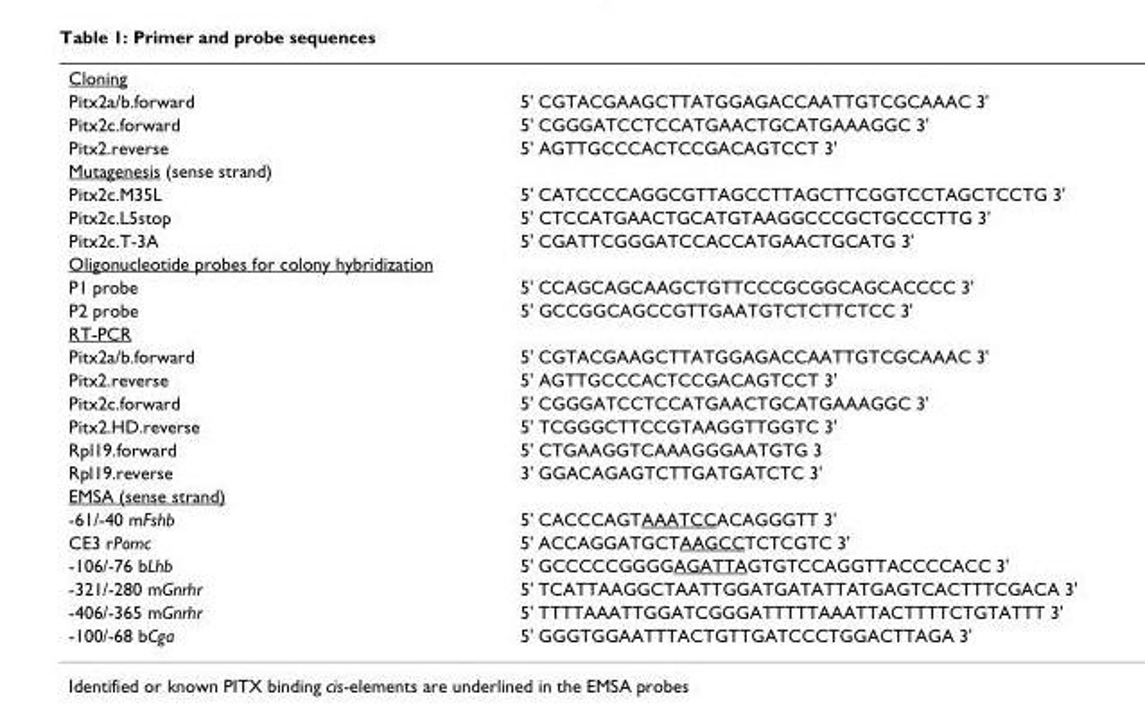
<table><tbody><tr><td colspan="2">Cloning</td></tr><tr><td>Pitx2a/b.forward</td><td>5&#x27; CGTACGAAGCTTATGGAGACCAATTGTCGCAAAC 3&#x27;</td></tr><tr><td>Pitx2c.forward</td><td>5&#x27; CGGGATCCTCCATGAACTGCATGAAAGGC 3&#x27;</td></tr><tr><td>Pitx2.reverse</td><td>5&#x27; AGTTGCCCACTCCGACAGTCCT 3&#x27;</td></tr><tr><td colspan="2">Mutagenesis (sense strand)</td></tr><tr><td>Pitx2c.M35L</td><td>5&#x27; CATCCCCAGGCGTTAGCCTTAGCTTCGGTCCTAGCTCCTG 3&#x27;</td></tr><tr><td>Pitx2c.L5stop</td><td>5&#x27; CTCCATGAACTGCATGTAAGGCCCGCTGCCCTTG 3&#x27;</td></tr><tr><td>Pitx2c.T-3A</td><td>5&#x27; CGATTCGGGATCCACCATGAACTGCATG 3&#x27;</td></tr><tr><td colspan="2">Oligonucleotide probes for colony hybridization</td></tr><tr><td>P1 probe</td><td>5&#x27; CCAGCAGCAAGCTGTTCCCGCGGCAGCACCCC 3&#x27;</td></tr><tr><td>P2 probe</td><td>5&#x27; GCCGGCAGCCGTTGAATGTCTCTTCTCC 3&#x27;</td></tr><tr><td colspan="2">RT-PCR</td></tr><tr><td>Pitx2a/b.forward</td><td>5&#x27; CGTACGAAGCTTATGGAGACCAATTGTCGCAAAC 3&#x27;</td></tr><tr><td>Pitx2.reverse</td><td>5&#x27; AGTTGCCCACTCCGACAGTCCT 3&#x27;</td></tr><tr><td>Pitx2c.forward</td><td>5&#x27; CGGGATCCTCCATGAACTGCATGAAAGGC 3&#x27;</td></tr><tr><td>Pitx2.HD.reverse</td><td>5&#x27; TCGGGCTTCCGTAAGGTTGGTC 3&#x27;</td></tr><tr><td>Rpl19.forward</td><td>5&#x27; CTGAAGGTCAAAGGGAATGTG 3</td></tr><tr><td>Rpl19.reverse</td><td>3&#x27; GGACAGAGTCTTGATGATCTC 3&#x27;</td></tr><tr><td colspan="2">EMSA (sense strand)</td></tr><tr><td>-61/-40 mFshb</td><td>5&#x27; CACCCAGTAAATCCACAGGGTT 3&#x27;</td></tr><tr><td>CE3 rPomc</td><td>5&#x27; ACCAGGATGCTAAGCCTCTCGTC 3&#x27;</td></tr><tr><td>-106/-76 bLhb</td><td>5&#x27; GCCCCCGGGGAGATTAGTGTCCAGGTTACCCCACC 3&#x27;</td></tr><tr><td>-321/-280 mGnrhr</td><td>5&#x27; TCATTAAGGCTAATTGGATGATATTATGAGTCACTTTCGACA 3&#x27;</td></tr><tr><td>-406/-365 mGnrhr</td><td>5&#x27; TTTTAAATTGGATCGGGATTTTTAAATTACTTTTCTGTATTT 3&#x27;</td></tr><tr><td>-100/-68 bCga</td><td>5&#x27; GGGTGGAATTTACTGTTGATCCCTGGACTTAGA 3&#x27;</td></tr></tbody></table>